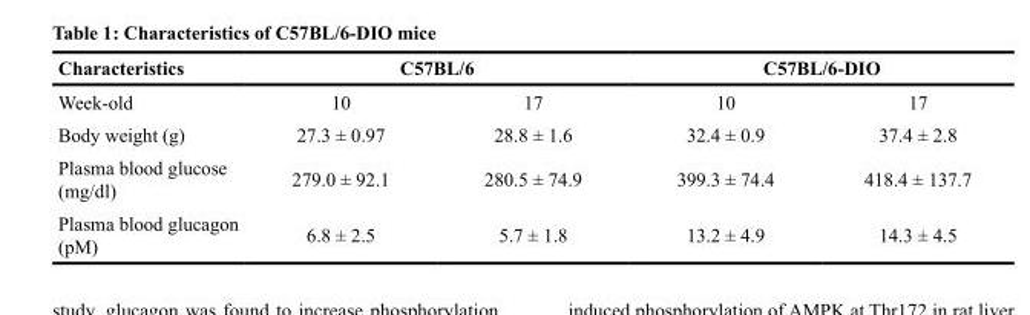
<table><thead><tr><td rowspan="2">Characteristics Week-old</td><td colspan="2">C57BL/6</td><td colspan="2">C57BL/6-DIO</td></tr><tr><td>10</td><td>17</td><td>10</td><td>17</td></tr></thead><tbody><tr><td>Body weight (g)</td><td>27.3 ± 0.97</td><td>28.8 ± 1.6</td><td>32.4 ± 0.9</td><td>37.4 ± 2.8</td></tr><tr><td>Plasma blood glucose (mg/dl)</td><td>279.0 ± 92.1</td><td>280.5 ± 74.9</td><td>399.3 ± 74.4</td><td>418.4 ± 137.7</td></tr><tr><td>Plasma blood glucagon (pM)</td><td>6.8 ± 2.5</td><td>5.7 ± 1.8</td><td>13.2 ± 4.9</td><td>14.3 ± 4.5</td></tr></tbody></table>